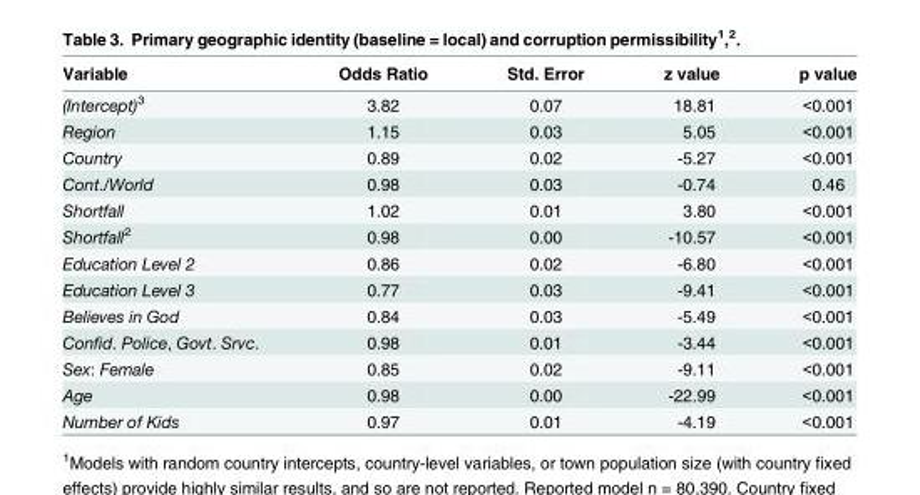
<table><thead><tr><td>Variable</td><td>Odds Ratio</td><td>Std. Error</td><td>z value</td><td>p value</td></tr></thead><tbody><tr><td>(Intercept)<sup>3</sup></td><td>3.82</td><td>0.07</td><td>18.81</td><td>&lt;0.001</td></tr><tr><td>Region</td><td>1.15</td><td>0.03</td><td>5.05</td><td>&lt;0.001</td></tr><tr><td>Country</td><td>0.89</td><td>0.02</td><td>-5.27</td><td>&lt;0.001</td></tr><tr><td>Cont./World</td><td>0.98</td><td>0.03</td><td>-0.74</td><td>0.46</td></tr><tr><td>Shortfall</td><td>1.02</td><td>0.01</td><td>3.80</td><td>&lt;0.001</td></tr><tr><td>Shortfall<sup>2</sup></td><td>0.98</td><td>0.00</td><td>-10.57</td><td>&lt;0.001</td></tr><tr><td>Education Level 2</td><td>0.86</td><td>0.02</td><td>-6.80</td><td>&lt;0.001</td></tr><tr><td>Education Level 3</td><td>0.77</td><td>0.03</td><td>-9.41</td><td>&lt;0.001</td></tr><tr><td>Believes in God</td><td>0.84</td><td>0.03</td><td>-5.49</td><td>&lt;0.001</td></tr><tr><td>Confid. Police, Govt. Srvc.</td><td>0.98</td><td>0.01</td><td>-3.44</td><td>&lt;0.001</td></tr><tr><td>Sex: Female</td><td>0.85</td><td>0.02</td><td>-9.11</td><td>&lt;0.001</td></tr><tr><td>Age</td><td>0.98</td><td>0.00</td><td>-22.99</td><td>&lt;0.001</td></tr><tr><td>Number of Kids</td><td>0.97</td><td>0.01</td><td>-4.19</td><td>&lt;0.001</td></tr></tbody></table>